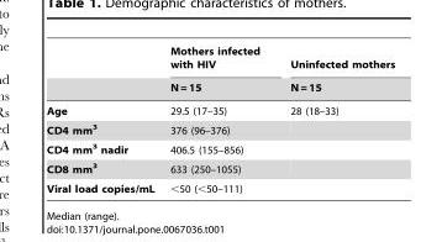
<table><thead><tr><td rowspan="2"></td><td rowspan="2">Mothers infected with HIV N = 15</td><td rowspan="2">Uninfected mothers N = 15</td></tr><tr></tr></thead><tbody><tr><td>Age</td><td>29.5 (17–35)</td><td>28 (18–33)</td></tr><tr><td>CD4 mm<sup>3</sup></td><td>376 (96–376)</td><td></td></tr><tr><td>CD4 mm<sup>3</sup> nadir</td><td>406.5 (155–856)</td><td></td></tr><tr><td>CD8 mm<sup>3</sup></td><td>633 (250–1055)</td><td></td></tr><tr><td>Viral load copies/mL</td><td>&lt;50 (&lt;50–111)</td><td></td></tr></tbody></table>